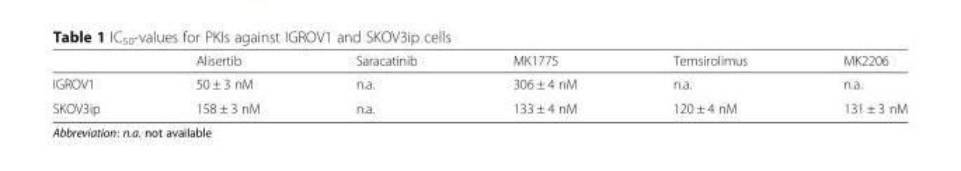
<table><thead><tr><td></td><td>Alisertib</td><td>Saracatinib</td><td>MK1775</td><td>Temsirolimus</td><td>MK2206</td></tr></thead><tbody><tr><td>IGROV1</td><td>50 ± 3 nM</td><td>n.a.</td><td>306 ± 4 nM</td><td>n.a.</td><td>n.a.</td></tr><tr><td>SKOV3ip</td><td>158 ± 3 nM</td><td>n.a.</td><td>133 ± 4 nM</td><td>120 ± 4 nM</td><td>131 ± 3 nM</td></tr></tbody></table>